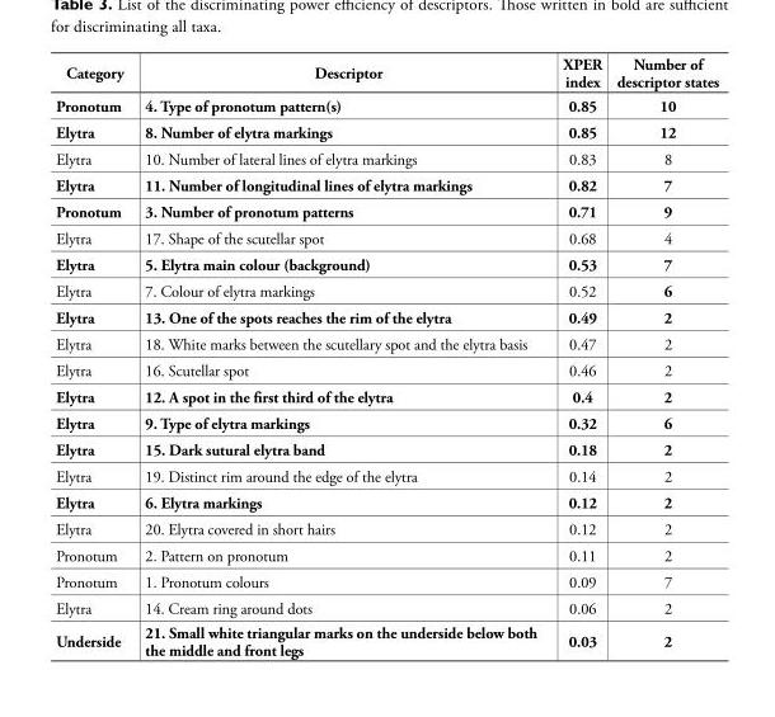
<table><thead><tr><td>Category</td><td>Descriptor</td><td>XPER index</td><td>Number of descriptor states</td></tr></thead><tbody><tr><td>Pronotum</td><td>4. Type of pronotum pattern(s)</td><td>0.85</td><td>10</td></tr><tr><td>Elytra</td><td>8. Number of elytra markings</td><td>0.85</td><td>12</td></tr><tr><td>Elytra</td><td>10. Number of lateral lines of elytra markings</td><td>0.83</td><td>8</td></tr><tr><td>Elytra</td><td>11. Number of longitudinal lines of elytra markings</td><td>0.82</td><td>7</td></tr><tr><td>Pronotum</td><td>3. Number of pronotum patterns</td><td>0.71</td><td>9</td></tr><tr><td>Elytra</td><td>17. Shape of the scutellar spot</td><td>0.68</td><td>4</td></tr><tr><td>Elytra</td><td>5. Elytra main colour (background)</td><td>0.53</td><td>7</td></tr><tr><td>Elytra</td><td>7. Colour of elytra markings</td><td>0.52</td><td>6</td></tr><tr><td>Elytra</td><td>13. One of the spots reaches the rim of the elytra</td><td>0.49</td><td>2</td></tr><tr><td>Elytra</td><td>18. White marks between the scutellary spot and the elytra basis</td><td>0.47</td><td>2</td></tr><tr><td>Elytra</td><td>16. Scutellar spot</td><td>0.46</td><td>2</td></tr><tr><td>Elytra</td><td>12. A spot in the first third of the elytra</td><td>0.4</td><td>2</td></tr><tr><td>Elytra</td><td>9. Type of elytra markings</td><td>0.32</td><td>6</td></tr><tr><td>Elytra</td><td>15. Dark sutural elytra band</td><td>0.18</td><td>2</td></tr><tr><td>Elytra</td><td>19. Distinct rim around the edge of the elytra</td><td>0.14</td><td>2</td></tr><tr><td>Elytra</td><td>6. Elytra markings</td><td>0.12</td><td>2</td></tr><tr><td>Elytra</td><td>20. Elytra covered in short hairs</td><td>0.12</td><td>2</td></tr><tr><td>Pronotum</td><td>2. Pattern on pronotum</td><td>0.11</td><td>2</td></tr><tr><td>Pronotum</td><td>1. Pronotum colours</td><td>0.09</td><td>7</td></tr><tr><td>Elytra</td><td>14. Cream ring around dots</td><td>0.06</td><td>2</td></tr><tr><td>Underside</td><td>21. Small white triangular marks on the underside below both the middle and front legs</td><td>0.03</td><td>2</td></tr></tbody></table>